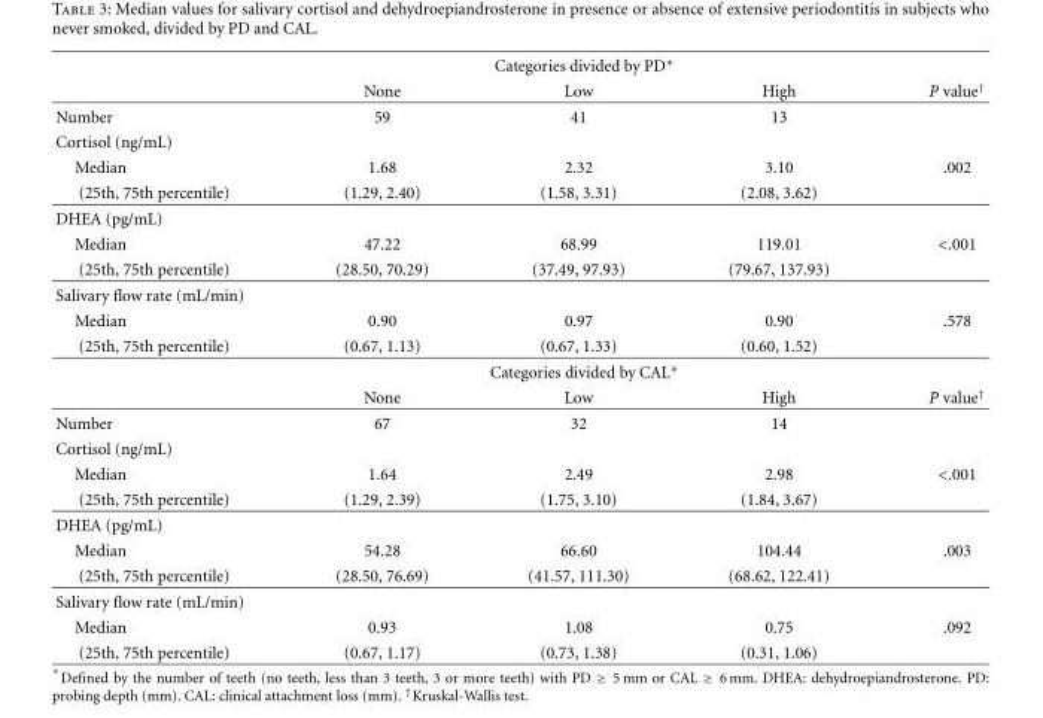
<table><thead><tr><td rowspan="2"></td><td colspan="3">Categories divided by PD∗</td><td rowspan="2">P value<sup>†</sup></td></tr><tr><td>None</td><td>Low</td><td>High</td></tr></thead><tbody><tr><td>Number</td><td>59</td><td>41</td><td>13</td><td></td></tr><tr><td colspan="5">Cortisol (ng/mL)</td></tr><tr><td>Median</td><td>1.68</td><td>2.32</td><td>3.10</td><td>.002</td></tr><tr><td>(25th, 75th percentile)</td><td>(1.29, 2.40)</td><td>(1.58, 3.31)</td><td>(2.08, 3.62)</td><td></td></tr><tr><td colspan="5">DHEA (pg/mL)</td></tr><tr><td>Median</td><td>47.22</td><td>68.99</td><td>119.01</td><td>&lt;.001</td></tr><tr><td>(25th, 75th percentile)</td><td>(28.50, 70.29)</td><td>(37.49, 97.93)</td><td>(79.67, 137.93)</td><td></td></tr><tr><td colspan="5">Salivary flow rate (mL/min)</td></tr><tr><td>Median</td><td>0.90</td><td>0.97</td><td>0.90</td><td>.578</td></tr><tr><td rowspan="3">(25th, 75th percentile)</td><td>(0.67, 1.13)</td><td>(0.67, 1.33)</td><td>(0.60, 1.52)</td><td></td></tr><tr><td colspan="3">Categories divided by CAL∗</td><td></td></tr><tr><td>None</td><td>Low</td><td>High</td><td>P value<sup>†</sup></td></tr><tr><td>Number</td><td>67</td><td>32</td><td>14</td><td></td></tr><tr><td colspan="5">Cortisol (ng/mL)</td></tr><tr><td>Median</td><td>1.64</td><td>2.49</td><td>2.98</td><td>&lt;.001</td></tr><tr><td>(25th, 75th percentile)</td><td>(1.29, 2.39)</td><td>(1.75, 3.10)</td><td>(1.84, 3.67)</td><td></td></tr><tr><td colspan="5">DHEA (pg/mL)</td></tr><tr><td>Median</td><td>54.28</td><td>66.60</td><td>104.44</td><td>.003</td></tr><tr><td>(25th, 75th percentile)</td><td>(28.50, 76.69)</td><td>(41.57, 111.30)</td><td>(68.62, 122.41)</td><td></td></tr><tr><td colspan="5">Salivary flow rate (mL/min)</td></tr><tr><td>Median</td><td>0.93</td><td>1.08</td><td>0.75</td><td>.092</td></tr><tr><td>(25th, 75th percentile)</td><td>(0.67, 1.17)</td><td>(0.73, 1.38)</td><td>(0.31, 1.06)</td><td></td></tr></tbody></table>